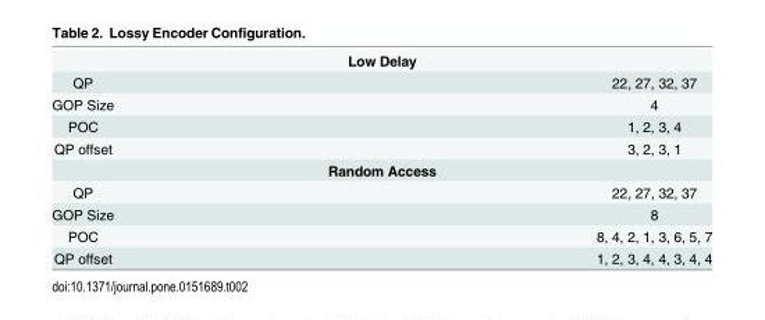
<table><tbody><tr><td colspan="2">Low Delay</td></tr><tr><td>QP</td><td>22, 27, 32, 37</td></tr><tr><td>GOP Size</td><td>4</td></tr><tr><td>POC</td><td>1, 2, 3, 4</td></tr><tr><td>QP offset</td><td>3, 2, 3, 1</td></tr><tr><td colspan="2">Random Access</td></tr><tr><td>QP</td><td>22, 27, 32, 37</td></tr><tr><td>GOP Size</td><td>8</td></tr><tr><td>POC</td><td>8, 4, 2, 1, 3, 6, 5, 7</td></tr><tr><td>QP offset</td><td>1, 2, 3, 4, 4, 3, 4, 4</td></tr></tbody></table>